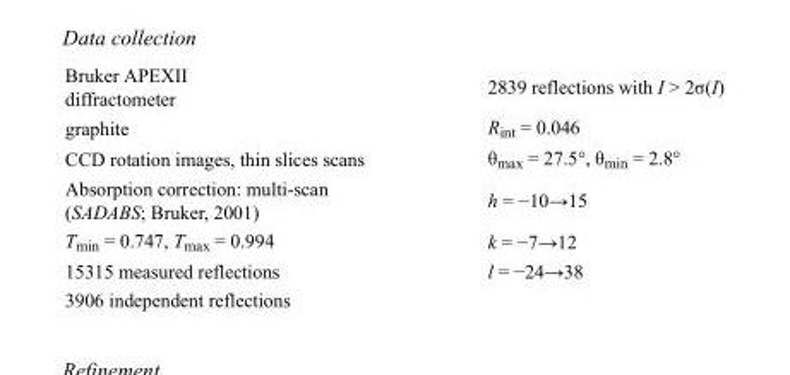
<table><tbody><tr><td>Bruker APEXII diffractometer</td><td>2839 reflections with I &gt; 2σ(I)</td></tr><tr><td>graphite</td><td>R<sub>int</sub> = 0.046</td></tr><tr><td>CCD rotation images, thin slices scans</td><td>θ<sub>max</sub> = 27.5°, θ<sub>min</sub> = 2.8°</td></tr><tr><td>Absorption correction: multi-scan (SADABS; Bruker, 2001)</td><td>h = −10→15</td></tr><tr><td>T<sub>min</sub> = 0.747, T<sub>max</sub> = 0.994</td><td>k = −7→12</td></tr><tr><td>15315 measured reflections</td><td>l = −24→38</td></tr><tr><td>3906 independent reflections</td><td></td></tr></tbody></table>